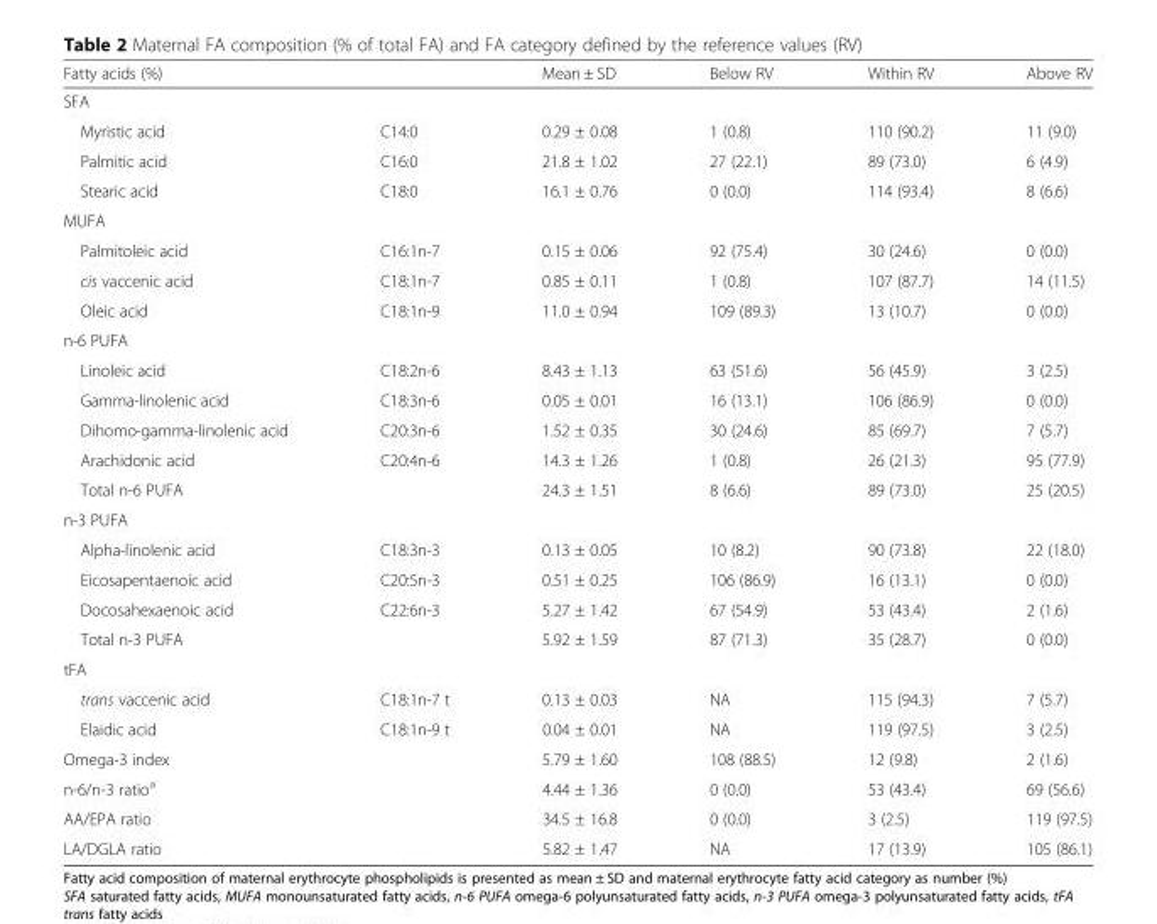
<table><thead><tr><td>Fatty acids (%)</td><td></td><td>Mean ± SD</td><td>Below RV</td><td>Within RV</td><td>Above RV</td></tr></thead><tbody><tr><td colspan="6">SFA</td></tr><tr><td>Myristic acid</td><td>C14:0</td><td>0.29 ± 0.08</td><td>1 (0.8)</td><td>110 (90.2)</td><td>11 (9.0)</td></tr><tr><td>Palmitic acid</td><td>C16:0</td><td>21.8 ± 1.02</td><td>27 (22.1)</td><td>89 (73.0)</td><td>6 (4.9)</td></tr><tr><td>Stearic acid</td><td>C18:0</td><td>16.1 ± 0.76</td><td>0 (0.0)</td><td>114 (93.4)</td><td>8 (6.6)</td></tr><tr><td colspan="6">MUFA</td></tr><tr><td>Palmitoleic acid</td><td>C16:1n-7</td><td>0.15 ± 0.06</td><td>92 (75.4)</td><td>30 (24.6)</td><td>0 (0.0)</td></tr><tr><td>cis vaccenic acid</td><td>C18:1n-7</td><td>0.85 ± 0.11</td><td>1 (0.8)</td><td>107 (87.7)</td><td>14 (11.5)</td></tr><tr><td>Oleic acid</td><td>C18:1n-9</td><td>11.0 ± 0.94</td><td>109 (89.3)</td><td>13 (10.7)</td><td>0 (0.0)</td></tr><tr><td colspan="6">n-6 PUFA</td></tr><tr><td>Linoleic acid</td><td>C18:2n-6</td><td>8.43 ± 1.13</td><td>63 (51.6)</td><td>56 (45.9)</td><td>3 (2.5)</td></tr><tr><td>Gamma-linolenic acid</td><td>C18:3n-6</td><td>0.05 ± 0.01</td><td>16 (13.1)</td><td>106 (86.9)</td><td>0 (0.0)</td></tr><tr><td>Dihomo-gamma-linolenic acid</td><td>C20:3n-6</td><td>1.52 ± 0.35</td><td>30 (24.6)</td><td>85 (69.7)</td><td>7 (5.7)</td></tr><tr><td>Arachidonic acid</td><td>C20:4n-6</td><td>14.3 ± 1.26</td><td>1 (0.8)</td><td>26 (21.3)</td><td>95 (77.9)</td></tr><tr><td>Total n-6 PUFA</td><td></td><td>24.3 ± 1.51</td><td>8 (6.6)</td><td>89 (73.0)</td><td>25 (20.5)</td></tr><tr><td colspan="6">n-3 PUFA</td></tr><tr><td>Alpha-linolenic acid</td><td>C18:3n-3</td><td>0.13 ± 0.05</td><td>10 (8.2)</td><td>90 (73.8)</td><td>22 (18.0)</td></tr><tr><td>Eicosapentaenoic acid</td><td>C20:5n-3</td><td>0.51 ± 0.25</td><td>106 (86.9)</td><td>16 (13.1)</td><td>0 (0.0)</td></tr><tr><td>Docosahexaenoic acid</td><td>C22:6n-3</td><td>5.27 ± 1.42</td><td>67 (54.9)</td><td>53 (43.4)</td><td>2 (1.6)</td></tr><tr><td>Total n-3 PUFA</td><td></td><td>5.92 ± 1.59</td><td>87 (71.3)</td><td>35 (28.7)</td><td>0 (0.0)</td></tr><tr><td colspan="6">tFA</td></tr><tr><td>trans vaccenic acid</td><td>C18:1n-7 t</td><td>0.13 ± 0.03</td><td>NA</td><td>115 (94.3)</td><td>7 (5.7)</td></tr><tr><td>Elaidic acid</td><td>C18:1n-9 t</td><td>0.04 ± 0.01</td><td>NA</td><td>119 (97.5)</td><td>3 (2.5)</td></tr><tr><td>Omega-3 index</td><td></td><td>5.79 ± 1.60</td><td>108 (88.5)</td><td>12 (9.8)</td><td>2 (1.6)</td></tr><tr><td>n-6/n-3 ratio<sup>a</sup></td><td></td><td>4.44 ± 1.36</td><td>0 (0.0)</td><td>53 (43.4)</td><td>69 (56.6)</td></tr><tr><td>AA/EPA ratio</td><td></td><td>34.5 ± 16.8</td><td>0 (0.0)</td><td>3 (2.5)</td><td>119 (97.5)</td></tr><tr><td>LA/DGLA ratio</td><td></td><td>5.82 ± 1.47</td><td>NA</td><td>17 (13.9)</td><td>105 (86.1)</td></tr></tbody></table>